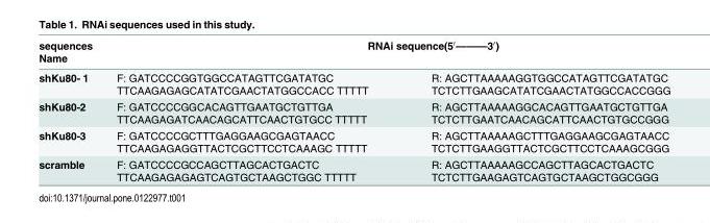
<table><thead><tr><td rowspan="2">sequences Name shKu80- 1</td><td colspan="2">RNAi sequence(5′———3′)</td></tr><tr><td>F: GATCCCCGGTGGCCATAGTTCGATATGC TTCAAGAGAGCATATCGAACTATGGCCACC TTTTT</td><td>R: AGCTTAAAAAGGTGGCCATAGTTCGATATGC TCTCTTGAAGCATATCGAACTATGGCCACCGGG</td></tr></thead><tbody><tr><td>shKu80-2</td><td>F: GATCCCCGGCACAGTTGAATGCTGTTGA TTCAAGAGATCAACAGCATTCAACTGTGCC TTTTT</td><td>R: AGCTTAAAAAGGCACAGTTGAATGCTGTTGA TCTCTTGAATCAACAGCATTCAACTGTGCCGGG</td></tr><tr><td>shKu80-3</td><td>F: GATCCCCGCTTTGAGGAAGCGAGTAACC TTCAAGAGAGGTTACTCGCTTCCTCAAAGC TTTTT</td><td>R: AGCTTAAAAAGCTTTGAGGAAGCGAGTAACC TCTCTTGAAGGTTACTCGCTTCCTCAAAGCGGG</td></tr><tr><td>scramble</td><td>F: GATCCCCGCCAGCTTAGCACTGACTC TTCAAGAGAGAGTCAGTGCTAAGCTGGC TTTTT</td><td>R: AGCTTAAAAAGCCAGCTTAGCACTGACTC TCTCTTGAAGAGTCAGTGCTAAGCTGGCGGG</td></tr></tbody></table>